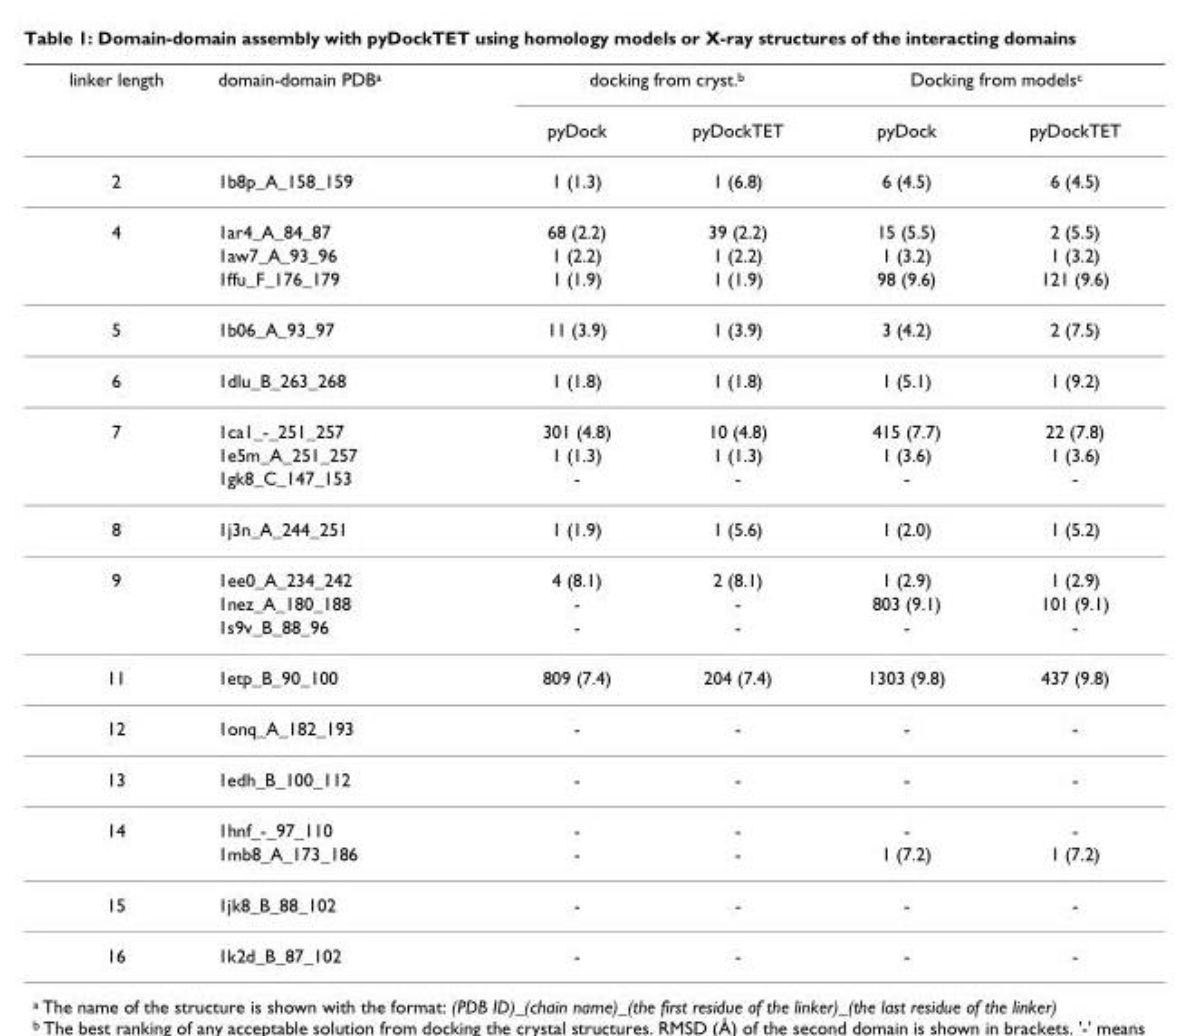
<table><thead><tr><td rowspan="2">linker length</td><td rowspan="2">domain-domain PDB<sup>a</sup></td><td colspan="2">docking from cryst.<sup>b</sup></td><td colspan="2">Docking from models<sup>c</sup></td></tr><tr><td>pyDock</td><td>pyDockTET</td><td>pyDock</td><td>pyDockTET</td></tr></thead><tbody><tr><td>2</td><td>1b8p_A_158_159</td><td>1 (1.3)</td><td>1 (6.8)</td><td>6 (4.5)</td><td>6 (4.5)</td></tr><tr><td rowspan="3">4</td><td>1ar4_A_84_87</td><td>68 (2.2)</td><td>39 (2.2)</td><td>15 (5.5)</td><td>2 (5.5)</td></tr><tr><td>1aw7_A_93_96</td><td>1 (2.2)</td><td>1 (2.2)</td><td>1 (3.2)</td><td>1 (3.2)</td></tr><tr><td>1ffu_F_176_179</td><td>1 (1.9)</td><td>1 (1.9)</td><td>98 (9.6)</td><td>121 (9.6)</td></tr><tr><td>5</td><td>1b06_A_93_97</td><td>11 (3.9)</td><td>1 (3.9)</td><td>3 (4.2)</td><td>2 (7.5)</td></tr><tr><td>6</td><td>1dlu_B_263_268</td><td>1 (1.8)</td><td>1 (1.8)</td><td>1 (5.1)</td><td>1 (9.2)</td></tr><tr><td rowspan="3">7</td><td>1ca1_-_251_257</td><td>301 (4.8)</td><td>10 (4.8)</td><td>415 (7.7)</td><td>22 (7.8)</td></tr><tr><td>1e5m_A_251_257</td><td>1 (1.3)</td><td>1 (1.3)</td><td>1 (3.6)</td><td>1 (3.6)</td></tr><tr><td>1gk8_C_147_153</td><td>-</td><td>-</td><td>-</td><td>-</td></tr><tr><td>8</td><td>1j3n_A_244_251</td><td>1 (1.9)</td><td>1 (5.6)</td><td>1 (2.0)</td><td>1 (5.2)</td></tr><tr><td rowspan="3">9</td><td>1ee0_A_234_242</td><td>4 (8.1)</td><td>2 (8.1)</td><td>1 (2.9)</td><td>1 (2.9)</td></tr><tr><td>1nez_A_180_188</td><td>-</td><td>-</td><td>803 (9.1)</td><td>101 (9.1)</td></tr><tr><td>1s9v_B_88_96</td><td>-</td><td>-</td><td>-</td><td>-</td></tr><tr><td>11</td><td>1etp_B_90_100</td><td>809 (7.4)</td><td>204 (7.4)</td><td>1303 (9.8)</td><td>437 (9.8)</td></tr><tr><td>12</td><td>1onq_A_182_193</td><td>-</td><td>-</td><td>-</td><td>-</td></tr><tr><td>13</td><td>1edh_B_100_112</td><td>-</td><td>-</td><td>-</td><td>-</td></tr><tr><td rowspan="2">14</td><td>1hnf_-_97_110</td><td>-</td><td>-</td><td>-</td><td>-</td></tr><tr><td>1mb8_A_173_186</td><td>-</td><td>-</td><td>1 (7.2)</td><td>1 (7.2)</td></tr><tr><td>15</td><td>1jk8_B_88_102</td><td>-</td><td>-</td><td>-</td><td>-</td></tr><tr><td>16</td><td>1k2d_B_87_102</td><td>-</td><td>-</td><td>-</td><td>-</td></tr></tbody></table>